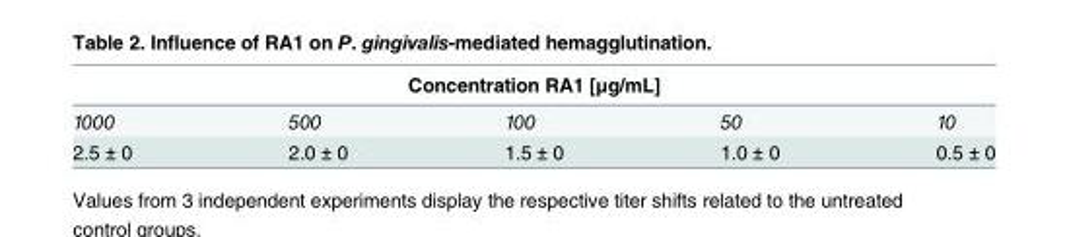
<table><thead><tr><td colspan="5">Concentration RA1 [μg/mL]</td></tr><tr><td>1000</td><td>500</td><td>100</td><td>50</td><td>10</td></tr></thead><tbody><tr><td>2.5 ± 0</td><td>2.0 ± 0</td><td>1.5 ± 0</td><td>1.0 ± 0</td><td>0.5 ± 0</td></tr></tbody></table>